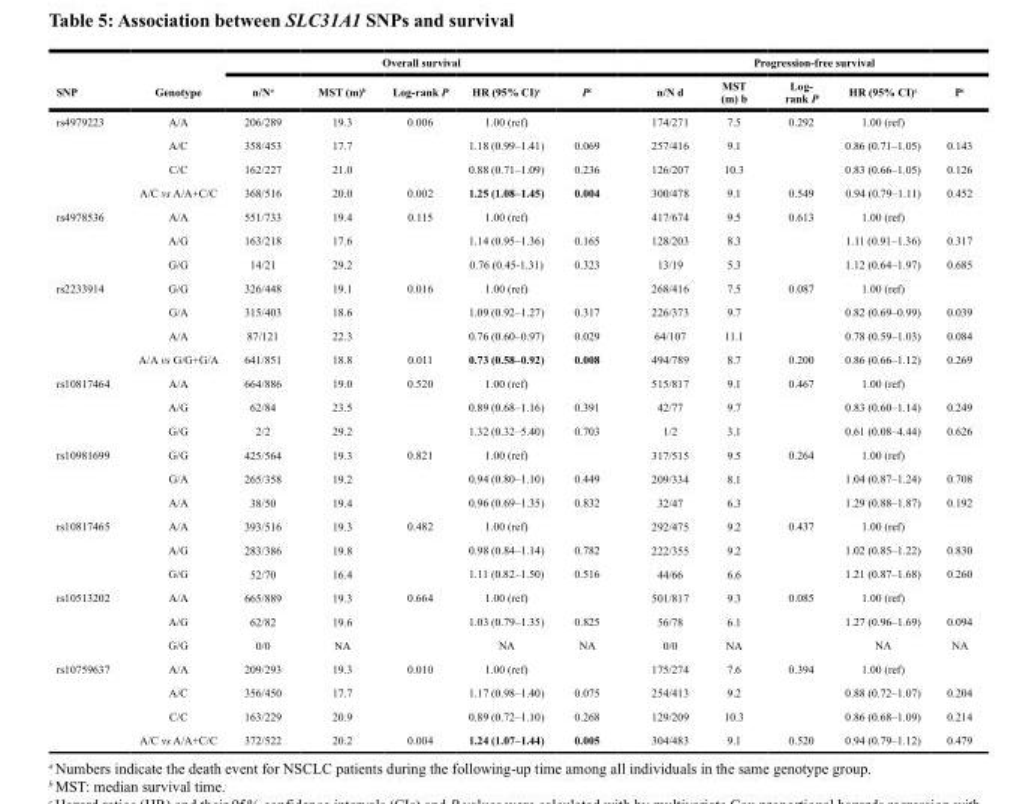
<table><thead><tr><td rowspan="2">SNP</td><td rowspan="2">Genotype</td><td colspan="5">Overall survival</td><td colspan="5">Progression-free survival</td></tr><tr><td>n/N<sup>a</sup></td><td>MST (m)<sup>b</sup></td><td>Log-rank P</td><td>HR (95% CI)<sup>c</sup></td><td>P<sup>c</sup></td><td>n/N d</td><td>MST (m) b</td><td>Log- rank P</td><td>HR (95% CI)<sup>c</sup></td><td>P<sup>c</sup></td></tr></thead><tbody><tr><td rowspan="4">rs4979223</td><td>A/A</td><td>206/289</td><td>19.3</td><td>0.006</td><td>1.00 (ref)</td><td></td><td>174/271</td><td>7.5</td><td>0.292</td><td>1.00 (ref)</td><td></td></tr><tr><td>A/C</td><td>358/453</td><td>17.7</td><td></td><td>1.18 (0.99–1.41)</td><td>0.069</td><td>257/416</td><td>9.1</td><td></td><td>0.86 (0.71–1.05)</td><td>0.143</td></tr><tr><td>C/C</td><td>162/227</td><td>21.0</td><td></td><td>0.88 (0.71–1.09)</td><td>0.236</td><td>126/207</td><td>10.3</td><td></td><td>0.83 (0.66–1.05)</td><td>0.126</td></tr><tr><td>A/C vs A/A+C/C</td><td>368/516</td><td>20.0</td><td>0.002</td><td>1.25 (1.08–1.45)</td><td>0.004</td><td>300/478</td><td>9.1</td><td>0.549</td><td>0.94 (0.79–1.11)</td><td>0.452</td></tr><tr><td rowspan="3">rs4978536</td><td>A/A</td><td>551/733</td><td>19.4</td><td>0.115</td><td>1.00 (ref)</td><td></td><td>417/674</td><td>9.5</td><td>0.613</td><td>1.00 (ref)</td><td></td></tr><tr><td>A/G</td><td>163/218</td><td>17.6</td><td></td><td>1.14 (0.95–1.36)</td><td>0.165</td><td>128/203</td><td>8.3</td><td></td><td>1.11 (0.91–1.36)</td><td>0.317</td></tr><tr><td>G/G</td><td>14/21</td><td>29.2</td><td></td><td>0.76 (0.45-1.31)</td><td>0.323</td><td>13/19</td><td>5.3</td><td></td><td>1.12 (0.64–1.97)</td><td>0.685</td></tr><tr><td rowspan="4">rs2233914</td><td>G/G</td><td>326/448</td><td>19.1</td><td>0.016</td><td>1.00 (ref)</td><td></td><td>268/416</td><td>7.5</td><td>0.087</td><td>1.00 (ref)</td><td></td></tr><tr><td>G/A</td><td>315/403</td><td>18.6</td><td></td><td>1.09 (0.92–1.27)</td><td>0.317</td><td>226/373</td><td>9.7</td><td></td><td>0.82 (0.69–0.99)</td><td>0.039</td></tr><tr><td>A/A</td><td>87/121</td><td>22.3</td><td></td><td>0.76 (0.60–0.97)</td><td>0.029</td><td>64/107</td><td>11.1</td><td></td><td>0.78 (0.59–1.03)</td><td>0.084</td></tr><tr><td>A/A vs G/G+G/A</td><td>641/851</td><td>18.8</td><td>0.011</td><td>0.73 (0.58–0.92)</td><td>0.008</td><td>494/789</td><td>8.7</td><td>0.200</td><td>0.86 (0.66–1.12)</td><td>0.269</td></tr><tr><td rowspan="3">rs10817464</td><td>A/A</td><td>664/886</td><td>19.0</td><td>0.520</td><td>1.00 (ref)</td><td></td><td>515/817</td><td>9.1</td><td>0.467</td><td>1.00 (ref)</td><td></td></tr><tr><td>A/G</td><td>62/84</td><td>23.5</td><td></td><td>0.89 (0.68–1.16)</td><td>0.391</td><td>42/77</td><td>9.7</td><td></td><td>0.83 (0.60–1.14)</td><td>0.249</td></tr><tr><td>G/G</td><td>2/2</td><td>29.2</td><td></td><td>1.32 (0.32–5.40)</td><td>0.703</td><td>1/2</td><td>3.1</td><td></td><td>0.61 (0.08–4.44)</td><td>0.626</td></tr><tr><td rowspan="3">rs10981699</td><td>G/G</td><td>425/564</td><td>19.3</td><td>0.821</td><td>1.00 (ref)</td><td></td><td>317/515</td><td>9.5</td><td>0.264</td><td>1.00 (ref)</td><td></td></tr><tr><td>G/A</td><td>265/358</td><td>19.2</td><td></td><td>0.94 (0.80–1.10)</td><td>0.449</td><td>209/334</td><td>8.1</td><td></td><td>1.04 (0.87–1.24)</td><td>0.708</td></tr><tr><td>A/A</td><td>38/50</td><td>19.4</td><td></td><td>0.96 (0.69–1.35)</td><td>0.832</td><td>32/47</td><td>6.3</td><td></td><td>1.29 (0.88–1.87)</td><td>0.192</td></tr><tr><td rowspan="3">rs10817465</td><td>A/A</td><td>393/516</td><td>19.3</td><td>0.482</td><td>1.00 (ref)</td><td></td><td>292/475</td><td>9.2</td><td>0.437</td><td>1.00 (ref)</td><td></td></tr><tr><td>A/G</td><td>283/386</td><td>19.8</td><td></td><td>0.98 (0.84–1.14)</td><td>0.782</td><td>222/355</td><td>9.2</td><td></td><td>1.02 (0.85–1.22)</td><td>0.830</td></tr><tr><td>G/G</td><td>52/70</td><td>16.4</td><td></td><td>1.11 (0.82–1.50)</td><td>0.516</td><td>44/66</td><td>6.6</td><td></td><td>1.21 (0.87–1.68)</td><td>0.260</td></tr><tr><td rowspan="3">rs10513202</td><td>A/A</td><td>665/889</td><td>19.3</td><td>0.664</td><td>1.00 (ref)</td><td></td><td>501/817</td><td>9.3</td><td>0.085</td><td>1.00 (ref)</td><td></td></tr><tr><td>A/G</td><td>62/82</td><td>19.6</td><td></td><td>1.03 (0.79–1.35)</td><td>0.825</td><td>56/78</td><td>6.1</td><td></td><td>1.27 (0.96–1.69)</td><td>0.094</td></tr><tr><td>G/G</td><td>0/0</td><td>NA</td><td></td><td>NA</td><td>NA</td><td>0/0</td><td>NA</td><td></td><td>NA</td><td>NA</td></tr><tr><td rowspan="4">rs10759637</td><td>A/A</td><td>209/293</td><td>19.3</td><td>0.010</td><td>1.00 (ref)</td><td></td><td>175/274</td><td>7.6</td><td>0.394</td><td>1.00 (ref)</td><td></td></tr><tr><td>A/C</td><td>356/450</td><td>17.7</td><td></td><td>1.17 (0.98–1.40)</td><td>0.075</td><td>254/413</td><td>9.2</td><td></td><td>0.88 (0.72–1.07)</td><td>0.204</td></tr><tr><td>C/C</td><td>163/229</td><td>20.9</td><td></td><td>0.89 (0.72–1.10)</td><td>0.268</td><td>129/209</td><td>10.3</td><td></td><td>0.86 (0.68–1.09)</td><td>0.214</td></tr><tr><td>A/C vs A/A+C/C</td><td>372/522</td><td>20.2</td><td>0.004</td><td>1.24 (1.07–1.44)</td><td>0.005</td><td>304/483</td><td>9.1</td><td>0.520</td><td>0.94 (0.79–1.12)</td><td>0.479</td></tr></tbody></table>